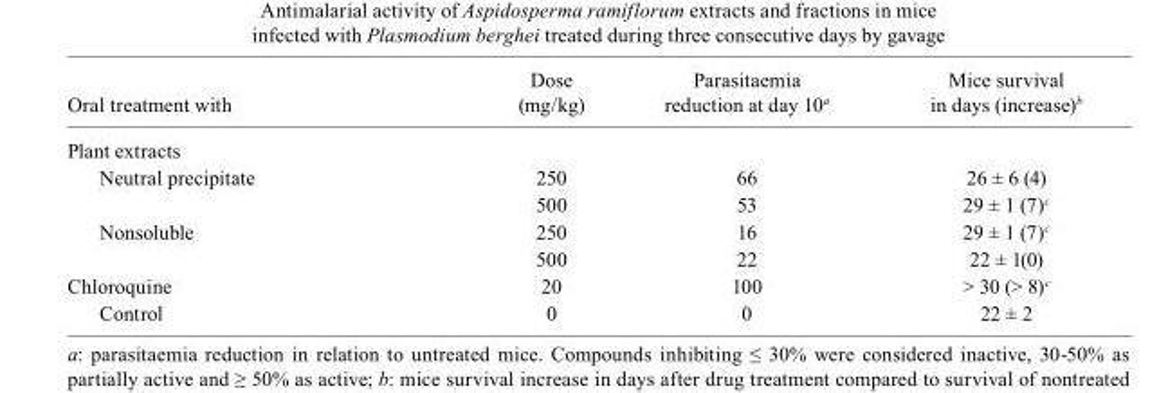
<table><thead><tr><td>Oral treatment with</td><td>Dose (mg/kg)</td><td>Parasitaemia reduction at day 10<sup>a</sup></td><td>Mice survival in days (increase)<sup>b</sup></td></tr></thead><tbody><tr><td colspan="4">Plant extracts</td></tr><tr><td rowspan="2">Neutral precipitate</td><td>250</td><td>66</td><td>26 ± 6 (4)</td></tr><tr><td>500</td><td>53</td><td>29 ± 1 (7)<sup>c</sup></td></tr><tr><td rowspan="2">Nonsoluble</td><td>250</td><td>16</td><td>29 ± 1 (7)<sup>c</sup></td></tr><tr><td>500</td><td>22</td><td>22 ± 1(0)</td></tr><tr><td>Chloroquine</td><td>20</td><td>100</td><td>&gt; 30 (&gt; 8)<sup>c</sup></td></tr><tr><td>Control</td><td>0</td><td>0</td><td>22 ± 2</td></tr></tbody></table>